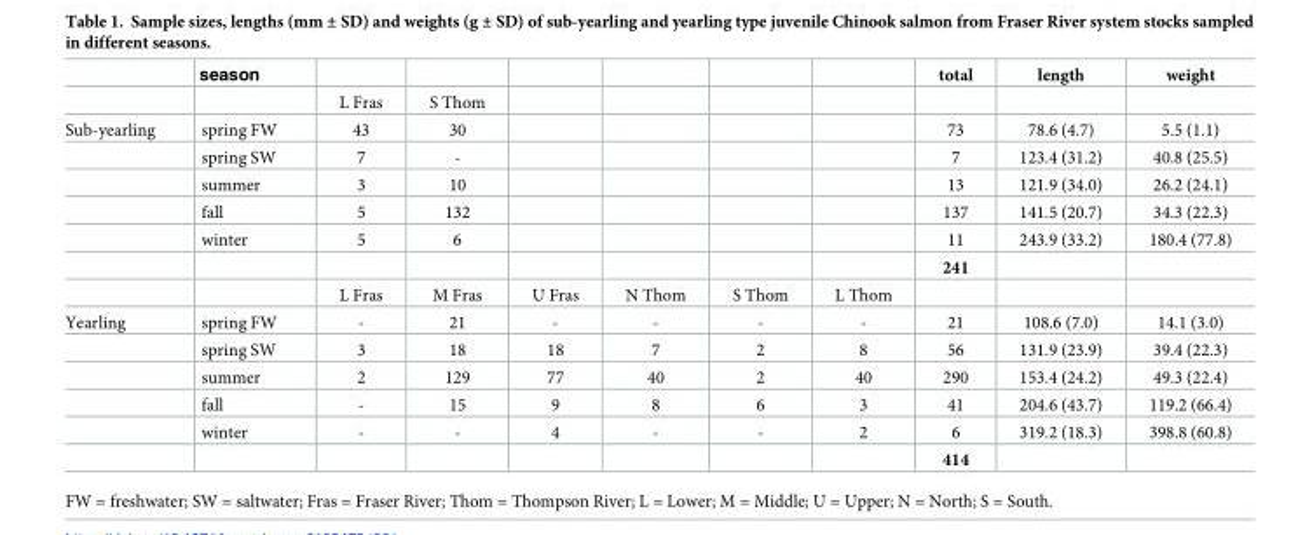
<table><thead><tr><td></td><td>season</td><td></td><td></td><td></td><td></td><td></td><td></td><td>total</td><td>length</td><td>weight</td></tr></thead><tbody><tr><td></td><td></td><td>L Fras</td><td>S Thom</td><td></td><td></td><td></td><td></td><td></td><td></td><td></td></tr><tr><td rowspan="7">Sub-yearling</td><td>spring FW</td><td>43</td><td>30</td><td></td><td></td><td></td><td></td><td>73</td><td>78.6 (4.7)</td><td>5.5 (1.1)</td></tr><tr><td>spring SW</td><td>7</td><td>-</td><td></td><td></td><td></td><td></td><td>7</td><td>123.4 (31.2)</td><td>40.8 (25.5)</td></tr><tr><td>summer</td><td>3</td><td>10</td><td></td><td></td><td></td><td></td><td>13</td><td>121.9 (34.0)</td><td>26.2 (24.1)</td></tr><tr><td>fall</td><td>5</td><td>132</td><td></td><td></td><td></td><td></td><td>137</td><td>141.5 (20.7)</td><td>34.3 (22.3)</td></tr><tr><td>winter</td><td>5</td><td>6</td><td></td><td></td><td></td><td></td><td>11</td><td>243.9 (33.2)</td><td>180.4 (77.8)</td></tr><tr><td></td><td></td><td></td><td></td><td></td><td></td><td></td><td>241</td><td></td><td></td></tr><tr><td></td><td>L Fras</td><td>M Fras</td><td>U Fras</td><td>N Thom</td><td>S Thom</td><td>L Thom</td><td></td><td></td><td></td></tr><tr><td rowspan="6">Yearling</td><td>spring FW</td><td>-</td><td>21</td><td>-</td><td>-</td><td>-</td><td>-</td><td>21</td><td>108.6 (7.0)</td><td>14.1 (3.0)</td></tr><tr><td>spring SW</td><td>3</td><td>18</td><td>18</td><td>7</td><td>2</td><td>8</td><td>56</td><td>131.9 (23.9)</td><td>39.4 (22.3)</td></tr><tr><td>summer</td><td>2</td><td>129</td><td>77</td><td>40</td><td>2</td><td>40</td><td>290</td><td>153.4 (24.2)</td><td>49.3 (22.4)</td></tr><tr><td>fall</td><td>-</td><td>15</td><td>9</td><td>8</td><td>6</td><td>3</td><td>41</td><td>204.6 (43.7)</td><td>119.2 (66.4)</td></tr><tr><td>winter</td><td>-</td><td>-</td><td>4</td><td>-</td><td>-</td><td>2</td><td>6</td><td>319.2 (18.3)</td><td>398.8 (60.8)</td></tr><tr><td></td><td></td><td></td><td></td><td></td><td></td><td></td><td>414</td><td></td><td></td></tr></tbody></table>